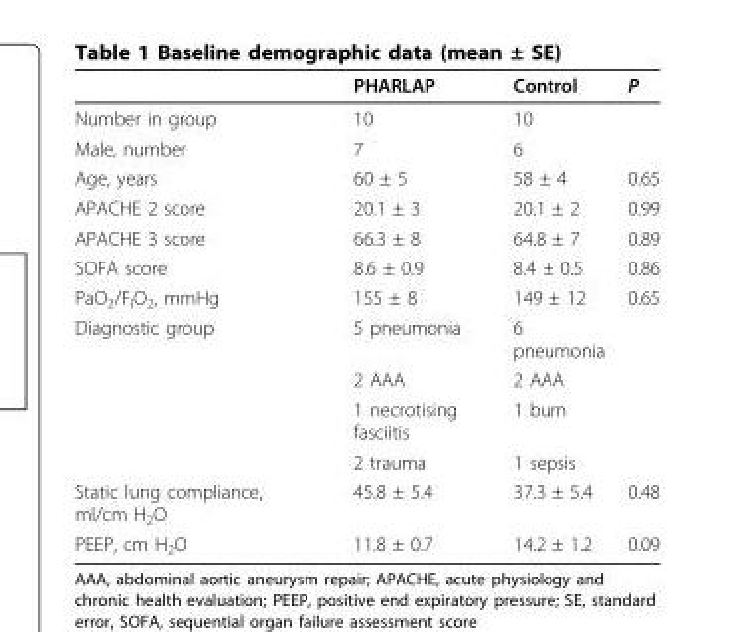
<table><thead><tr><td></td><td>PHARLAP</td><td>Control</td><td>P</td></tr></thead><tbody><tr><td>Number in group</td><td>10</td><td>10</td><td></td></tr><tr><td>Male, number</td><td>7</td><td>6</td><td></td></tr><tr><td>Age, years</td><td>60 ± 5</td><td>58 ± 4</td><td>0.65</td></tr><tr><td>APACHE 2 score</td><td>20.1 ± 3</td><td>20.1 ± 2</td><td>0.99</td></tr><tr><td>APACHE 3 score</td><td>66.3 ± 8</td><td>64.8 ± 7</td><td>0.89</td></tr><tr><td>SOFA score</td><td>8.6 ± 0.9</td><td>8.4 ± 0.5</td><td>0.86</td></tr><tr><td>PaO<sub>2</sub>/F<sub>I</sub>O<sub>2</sub>, mmHg</td><td>155 ± 8</td><td>149 ± 12</td><td>0.65</td></tr><tr><td rowspan="4">Diagnostic group</td><td>5 pneumonia</td><td>6 pneumonia</td><td></td></tr><tr><td>2 AAA</td><td>2 AAA</td><td></td></tr><tr><td>1 necrotising fasciitis</td><td>1 burn</td><td></td></tr><tr><td>2 trauma</td><td>1 sepsis</td><td></td></tr><tr><td>Static lung compliance, ml/cm H<sub>2</sub>O</td><td>45.8 ± 5.4</td><td>37.3 ± 5.4</td><td>0.48</td></tr><tr><td>PEEP, cm H<sub>2</sub>O</td><td>11.8 ± 0.7</td><td>14.2 ± 1.2</td><td>0.09</td></tr></tbody></table>